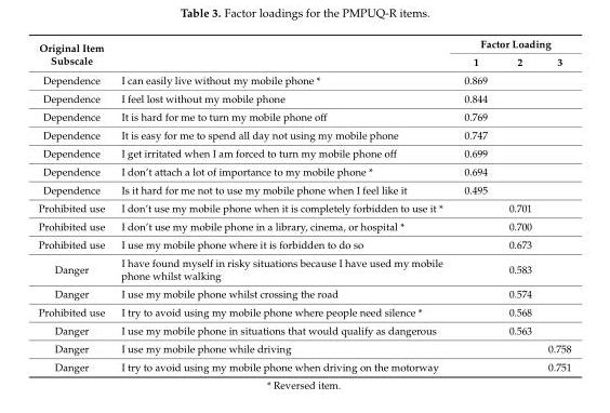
<table><thead><tr><td rowspan="2">Original Item Subscale</td><td rowspan="2"></td><td colspan="3">Factor Loading</td></tr><tr><td>1</td><td>2</td><td>3</td></tr></thead><tbody><tr><td>Dependence</td><td>I can easily live without my mobile phone *</td><td>0.869</td><td></td><td></td></tr><tr><td>Dependence</td><td>I feel lost without my mobile phone</td><td>0.844</td><td></td><td></td></tr><tr><td>Dependence</td><td>It is hard for me to turn my mobile phone off</td><td>0.769</td><td></td><td></td></tr><tr><td>Dependence</td><td>It is easy for me to spend all day not using my mobile phone</td><td>0.747</td><td></td><td></td></tr><tr><td>Dependence</td><td>I get irritated when I am forced to turn my mobile phone off</td><td>0.699</td><td></td><td></td></tr><tr><td>Dependence</td><td>I don’t attach a lot of importance to my mobile phone *</td><td>0.694</td><td></td><td></td></tr><tr><td>Dependence</td><td>Is it hard for me not to use my mobile phone when I feel like it</td><td>0.495</td><td></td><td></td></tr><tr><td>Prohibited use</td><td>I don’t use my mobile phone when it is completely forbidden to use it *</td><td></td><td>0.701</td><td></td></tr><tr><td>Prohibited use</td><td>I don’t use my mobile phone in a library, cinema, or hospital *</td><td></td><td>0.700</td><td></td></tr><tr><td>Prohibited use</td><td>I use my mobile phone where it is forbidden to do so</td><td></td><td>0.673</td><td></td></tr><tr><td>Danger</td><td>I have found myself in risky situations because I have used my mobile phone whilst walking</td><td></td><td>0.583</td><td></td></tr><tr><td>Danger</td><td>I use my mobile phone whilst crossing the road</td><td></td><td>0.574</td><td></td></tr><tr><td>Prohibited use</td><td>I try to avoid using my mobile phone where people need silence *</td><td></td><td>0.568</td><td></td></tr><tr><td>Danger</td><td>I use my mobile phone in situations that would qualify as dangerous</td><td></td><td>0.563</td><td></td></tr><tr><td>Danger</td><td>I use my mobile phone while driving</td><td></td><td></td><td>0.758</td></tr><tr><td>Danger</td><td>I try to avoid using my mobile phone when driving on the motorway</td><td></td><td></td><td>0.751</td></tr></tbody></table>